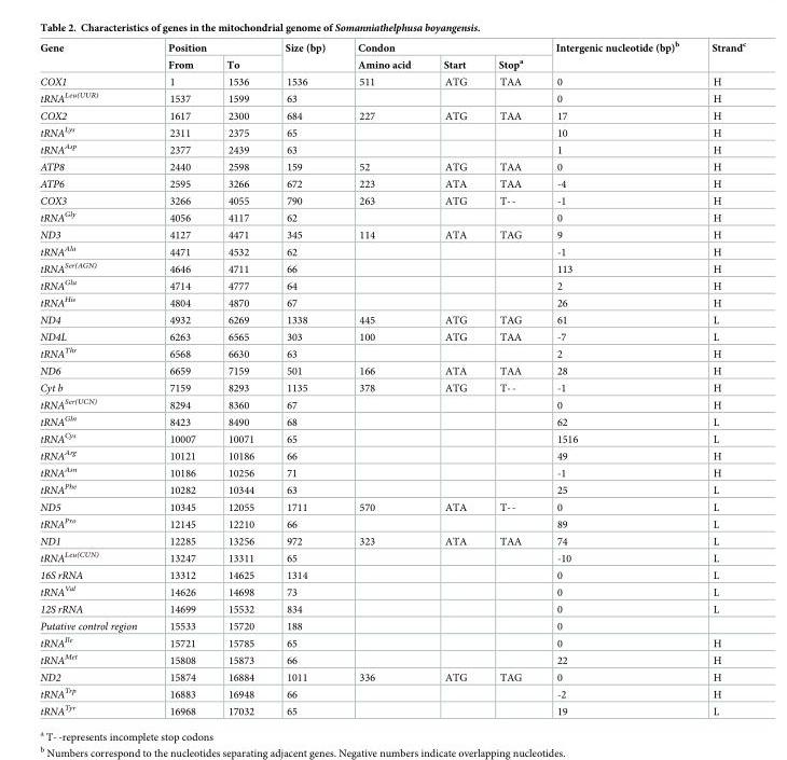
<table><thead><tr><td rowspan="2">Gene</td><td colspan="2">Position</td><td rowspan="2">Size (bp)</td><td colspan="3">Condon</td><td rowspan="2">Intergenic nucleotide (bp)<sup>b</sup></td><td rowspan="2">Strand<sup>c</sup></td></tr><tr><td>From</td><td>To</td><td>Amino acid</td><td>Start</td><td>Stop<sup>a</sup></td></tr></thead><tbody><tr><td>COX1</td><td>1</td><td>1536</td><td>1536</td><td>511</td><td>ATG</td><td>TAA</td><td>0</td><td>H</td></tr><tr><td>tRNA<sup>Leu(UUR)</sup></td><td>1537</td><td>1599</td><td>63</td><td></td><td></td><td></td><td>0</td><td>H</td></tr><tr><td>COX2</td><td>1617</td><td>2300</td><td>684</td><td>227</td><td>ATG</td><td>TAA</td><td>17</td><td>H</td></tr><tr><td>tRNA<sup>Lys</sup></td><td>2311</td><td>2375</td><td>65</td><td></td><td></td><td></td><td>10</td><td>H</td></tr><tr><td>tRNA<sup>Asp</sup></td><td>2377</td><td>2439</td><td>63</td><td></td><td></td><td></td><td>1</td><td>H</td></tr><tr><td>ATP8</td><td>2440</td><td>2598</td><td>159</td><td>52</td><td>ATG</td><td>TAA</td><td>0</td><td>H</td></tr><tr><td>ATP6</td><td>2595</td><td>3266</td><td>672</td><td>223</td><td>ATA</td><td>TAA</td><td>-4</td><td>H</td></tr><tr><td>COX3</td><td>3266</td><td>4055</td><td>790</td><td>263</td><td>ATG</td><td>T--</td><td>-1</td><td>H</td></tr><tr><td>tRNA<sup>Gly</sup></td><td>4056</td><td>4117</td><td>62</td><td></td><td></td><td></td><td>0</td><td>H</td></tr><tr><td>ND3</td><td>4127</td><td>4471</td><td>345</td><td>114</td><td>ATA</td><td>TAG</td><td>9</td><td>H</td></tr><tr><td>tRNA<sup>Ala</sup></td><td>4471</td><td>4532</td><td>62</td><td></td><td></td><td></td><td>-1</td><td>H</td></tr><tr><td>tRNA<sup>Ser(AGN)</sup></td><td>4646</td><td>4711</td><td>66</td><td></td><td></td><td></td><td>113</td><td>H</td></tr><tr><td>tRNA<sup>Glu</sup></td><td>4714</td><td>4777</td><td>64</td><td></td><td></td><td></td><td>2</td><td>H</td></tr><tr><td>tRNA<sup>His</sup></td><td>4804</td><td>4870</td><td>67</td><td></td><td></td><td></td><td>26</td><td>H</td></tr><tr><td>ND4</td><td>4932</td><td>6269</td><td>1338</td><td>445</td><td>ATG</td><td>TAG</td><td>61</td><td>L</td></tr><tr><td>ND4L</td><td>6263</td><td>6565</td><td>303</td><td>100</td><td>ATG</td><td>TAA</td><td>-7</td><td>L</td></tr><tr><td>tRNA<sup>Thr</sup></td><td>6568</td><td>6630</td><td>63</td><td></td><td></td><td></td><td>2</td><td>H</td></tr><tr><td>ND6</td><td>6659</td><td>7159</td><td>501</td><td>166</td><td>ATA</td><td>TAA</td><td>28</td><td>H</td></tr><tr><td>Cyt b</td><td>7159</td><td>8293</td><td>1135</td><td>378</td><td>ATG</td><td>T--</td><td>-1</td><td>H</td></tr><tr><td>tRNA<sup>Ser(UCN)</sup></td><td>8294</td><td>8360</td><td>67</td><td></td><td></td><td></td><td>0</td><td>H</td></tr><tr><td>tRNA<sup>Gln</sup></td><td>8423</td><td>8490</td><td>68</td><td></td><td></td><td></td><td>62</td><td>L</td></tr><tr><td>tRNA<sup>Cys</sup></td><td>10007</td><td>10071</td><td>65</td><td></td><td></td><td></td><td>1516</td><td>L</td></tr><tr><td>tRNA<sup>Arg</sup></td><td>10121</td><td>10186</td><td>66</td><td></td><td></td><td></td><td>49</td><td>H</td></tr><tr><td>tRNA<sup>Asn</sup></td><td>10186</td><td>10256</td><td>71</td><td></td><td></td><td></td><td>-1</td><td>H</td></tr><tr><td>tRNA<sup>Phe</sup></td><td>10282</td><td>10344</td><td>63</td><td></td><td></td><td></td><td>25</td><td>L</td></tr><tr><td>ND5</td><td>10345</td><td>12055</td><td>1711</td><td>570</td><td>ATA</td><td>T--</td><td>0</td><td>L</td></tr><tr><td>tRNA<sup>Pro</sup></td><td>12145</td><td>12210</td><td>66</td><td></td><td></td><td></td><td>89</td><td>L</td></tr><tr><td>ND1</td><td>12285</td><td>13256</td><td>972</td><td>323</td><td>ATA</td><td>TAA</td><td>74</td><td>L</td></tr><tr><td>tRNA<sup>Leu(CUN)</sup></td><td>13247</td><td>13311</td><td>65</td><td></td><td></td><td></td><td>-10</td><td>L</td></tr><tr><td>16S rRNA</td><td>13312</td><td>14625</td><td>1314</td><td></td><td></td><td></td><td>0</td><td>L</td></tr><tr><td>tRNA<sup>Val</sup></td><td>14626</td><td>14698</td><td>73</td><td></td><td></td><td></td><td>0</td><td>L</td></tr><tr><td>12S rRNA</td><td>14699</td><td>15532</td><td>834</td><td></td><td></td><td></td><td>0</td><td>L</td></tr><tr><td>Putative control region</td><td>15533</td><td>15720</td><td>188</td><td></td><td></td><td></td><td>0</td><td></td></tr><tr><td>tRNA<sup>Ile</sup></td><td>15721</td><td>15785</td><td>65</td><td></td><td></td><td></td><td>0</td><td>H</td></tr><tr><td>tRNA<sup>Met</sup></td><td>15808</td><td>15873</td><td>66</td><td></td><td></td><td></td><td>22</td><td>H</td></tr><tr><td>ND2</td><td>15874</td><td>16884</td><td>1011</td><td>336</td><td>ATG</td><td>TAG</td><td>0</td><td>H</td></tr><tr><td>tRNA<sup>Trp</sup></td><td>16883</td><td>16948</td><td>66</td><td></td><td></td><td></td><td>-2</td><td>H</td></tr><tr><td>tRNA<sup>Tyr</sup></td><td>16968</td><td>17032</td><td>65</td><td></td><td></td><td></td><td>19</td><td>L</td></tr></tbody></table>